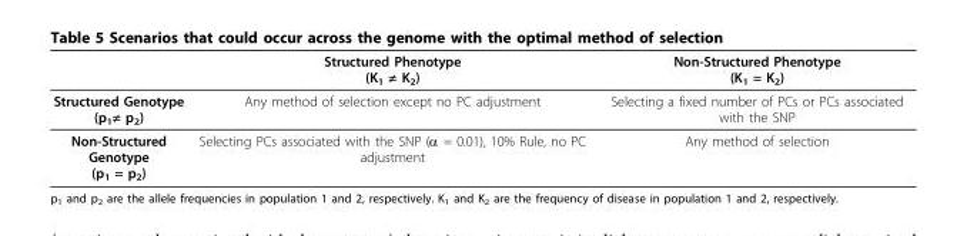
<table><thead><tr><td></td><td>Structured Phenotype (K<sub>1</sub> ≠ K<sub>2</sub>)</td><td>Non-Structured Phenotype (K<sub>1</sub> = K<sub>2</sub>)</td></tr></thead><tbody><tr><td>Structured Genotype (p<sub>1</sub>≠ p<sub>2</sub>)</td><td>Any method of selection except no PC adjustment</td><td>Selecting a fixed number of PCs or PCs associated with the SNP</td></tr><tr><td>Non-Structured Genotype (p<sub>1</sub> = p<sub>2</sub>)</td><td>Selecting PCs associated with the SNP (α = 0.01), 10% Rule, no PC adjustment</td><td>Any method of selection</td></tr></tbody></table>